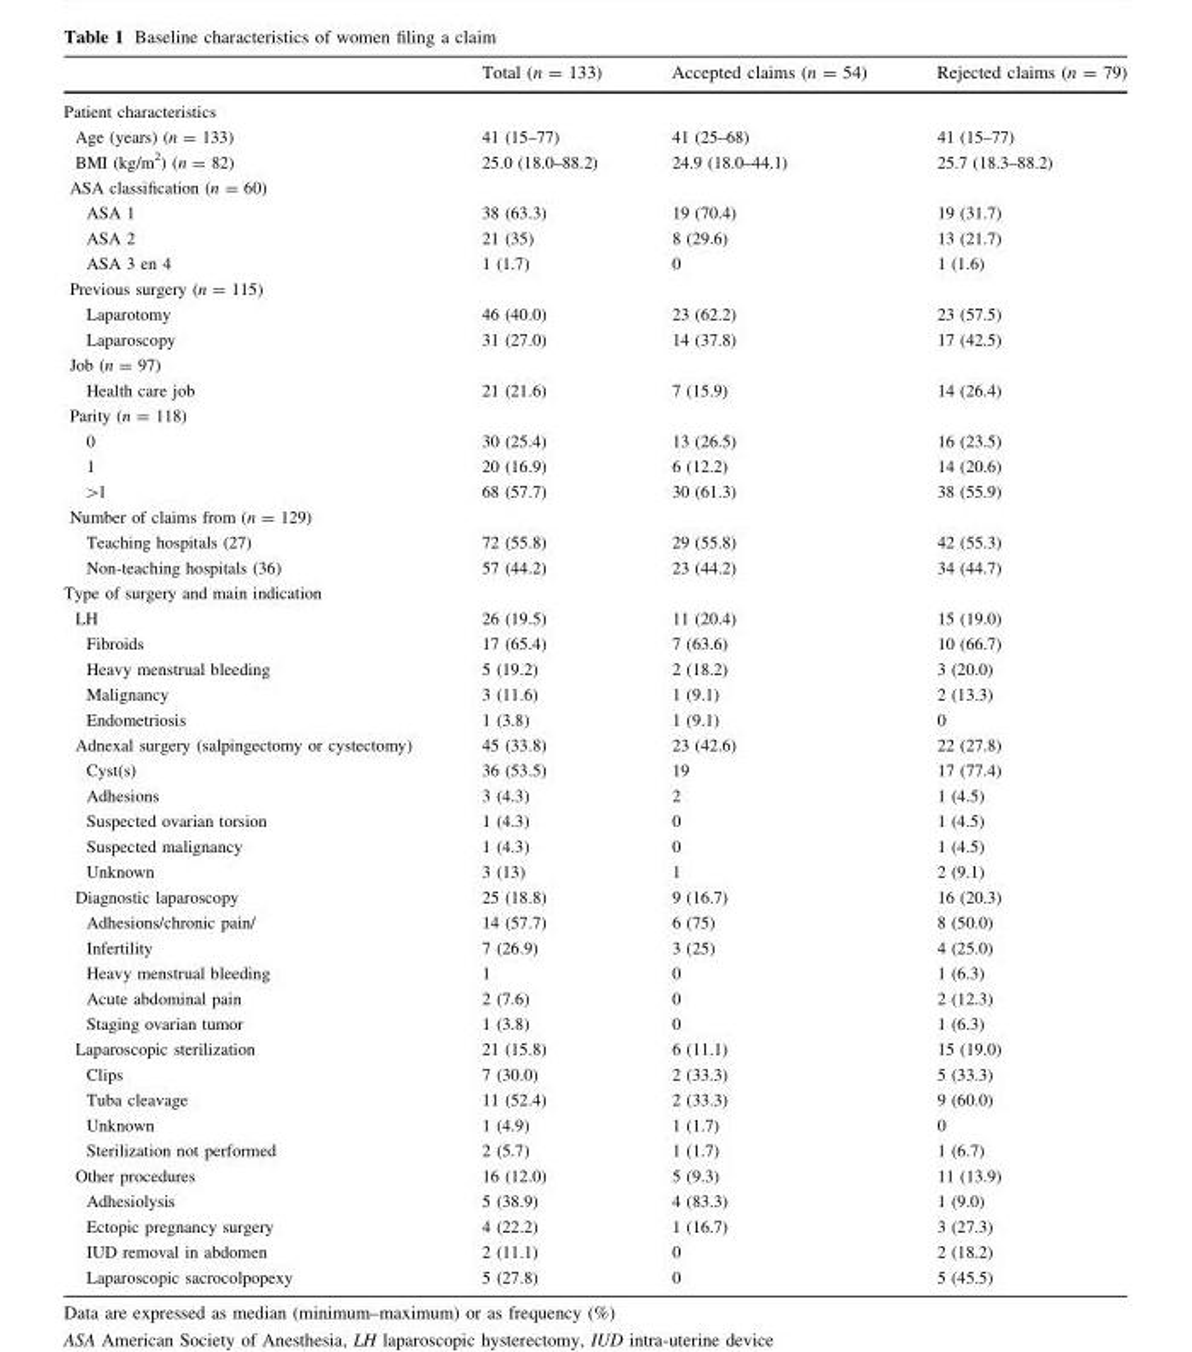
<table><thead><tr><td></td><td>Total (n = 133)</td><td>Accepted claims (n = 54)</td><td>Rejected claims (n = 79)</td></tr></thead><tbody><tr><td colspan="4">Patient characteristics</td></tr><tr><td>Age (years) (n = 133)</td><td>41 (15–77)</td><td>41 (25–68)</td><td>41 (15–77)</td></tr><tr><td>BMI (kg/m<sup>2</sup>) (n = 82)</td><td>25.0 (18.0–88.2)</td><td>24.9 (18.0–44.1)</td><td>25.7 (18.3–88.2)</td></tr><tr><td colspan="4">ASA classification (n = 60)</td></tr><tr><td>ASA 1</td><td>38 (63.3)</td><td>19 (70.4)</td><td>19 (31.7)</td></tr><tr><td>ASA 2</td><td>21 (35)</td><td>8 (29.6)</td><td>13 (21.7)</td></tr><tr><td>ASA 3 en 4</td><td>1 (1.7)</td><td>0</td><td>1 (1.6)</td></tr><tr><td colspan="4">Previous surgery (n = 115)</td></tr><tr><td>Laparotomy</td><td>46 (40.0)</td><td>23 (62.2)</td><td>23 (57.5)</td></tr><tr><td>Laparoscopy</td><td>31 (27.0)</td><td>14 (37.8)</td><td>17 (42.5)</td></tr><tr><td colspan="4">Job (n = 97)</td></tr><tr><td>Health care job</td><td>21 (21.6)</td><td>7 (15.9)</td><td>14 (26.4)</td></tr><tr><td colspan="4">Parity (n = 118)</td></tr><tr><td>0</td><td>30 (25.4)</td><td>13 (26.5)</td><td>16 (23.5)</td></tr><tr><td>1</td><td>20 (16.9)</td><td>6 (12.2)</td><td>14 (20.6)</td></tr><tr><td>&gt;1</td><td>68 (57.7)</td><td>30 (61.3)</td><td>38 (55.9)</td></tr><tr><td colspan="4">Number of claims from (n = 129)</td></tr><tr><td>Teaching hospitals (27)</td><td>72 (55.8)</td><td>29 (55.8)</td><td>42 (55.3)</td></tr><tr><td>Non-teaching hospitals (36)</td><td>57 (44.2)</td><td>23 (44.2)</td><td>34 (44.7)</td></tr><tr><td colspan="4">Type of surgery and main indication</td></tr><tr><td>LH</td><td>26 (19.5)</td><td>11 (20.4)</td><td>15 (19.0)</td></tr><tr><td>Fibroids</td><td>17 (65.4)</td><td>7 (63.6)</td><td>10 (66.7)</td></tr><tr><td>Heavy menstrual bleeding</td><td>5 (19.2)</td><td>2 (18.2)</td><td>3 (20.0)</td></tr><tr><td>Malignancy</td><td>3 (11.6)</td><td>1 (9.1)</td><td>2 (13.3)</td></tr><tr><td>Endometriosis</td><td>1 (3.8)</td><td>1 (9.1)</td><td>0</td></tr><tr><td>Adnexal surgery (salpingectomy or cystectomy)</td><td>45 (33.8)</td><td>23 (42.6)</td><td>22 (27.8)</td></tr><tr><td>Cyst(s)</td><td>36 (53.5)</td><td>19</td><td>17 (77.4)</td></tr><tr><td>Adhesions</td><td>3 (4.3)</td><td>2</td><td>1 (4.5)</td></tr><tr><td>Suspected ovarian torsion</td><td>1 (4.3)</td><td>0</td><td>1 (4.5)</td></tr><tr><td>Suspected malignancy</td><td>1 (4.3)</td><td>0</td><td>1 (4.5)</td></tr><tr><td>Unknown</td><td>3 (13)</td><td>1</td><td>2 (9.1)</td></tr><tr><td>Diagnostic laparoscopy</td><td>25 (18.8)</td><td>9 (16.7)</td><td>16 (20.3)</td></tr><tr><td>Adhesions/chronic pain/</td><td>14 (57.7)</td><td>6 (75)</td><td>8 (50.0)</td></tr><tr><td>Infertility</td><td>7 (26.9)</td><td>3 (25)</td><td>4 (25.0)</td></tr><tr><td>Heavy menstrual bleeding</td><td>1</td><td>0</td><td>1 (6.3)</td></tr><tr><td>Acute abdominal pain</td><td>2 (7.6)</td><td>0</td><td>2 (12.3)</td></tr><tr><td>Staging ovarian tumor</td><td>1 (3.8)</td><td>0</td><td>1 (6.3)</td></tr><tr><td>Laparoscopic sterilization</td><td>21 (15.8)</td><td>6 (11.1)</td><td>15 (19.0)</td></tr><tr><td>Clips</td><td>7 (30.0)</td><td>2 (33.3)</td><td>5 (33.3)</td></tr><tr><td>Tuba cleavage</td><td>11 (52.4)</td><td>2 (33.3)</td><td>9 (60.0)</td></tr><tr><td>Unknown</td><td>1 (4.9)</td><td>1 (1.7)</td><td>0</td></tr><tr><td>Sterilization not performed</td><td>2 (5.7)</td><td>1 (1.7)</td><td>1 (6.7)</td></tr><tr><td>Other procedures</td><td>16 (12.0)</td><td>5 (9.3)</td><td>11 (13.9)</td></tr><tr><td>Adhesiolysis</td><td>5 (38.9)</td><td>4 (83.3)</td><td>1 (9.0)</td></tr><tr><td>Ectopic pregnancy surgery</td><td>4 (22.2)</td><td>1 (16.7)</td><td>3 (27.3)</td></tr><tr><td>IUD removal in abdomen</td><td>2 (11.1)</td><td>0</td><td>2 (18.2)</td></tr><tr><td>Laparoscopic sacrocolpopexy</td><td>5 (27.8)</td><td>0</td><td>5 (45.5)</td></tr></tbody></table>